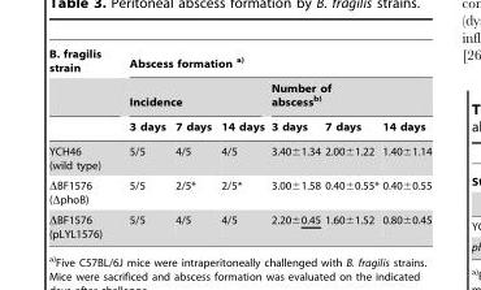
<table><thead><tr><td rowspan="3">B. fragilis strain</td><td colspan="6">Abscess formation a)</td></tr><tr><td colspan="3">Incidence</td><td colspan="3">Number of abscessb)</td></tr><tr><td>3 days</td><td>7 days</td><td>14 days</td><td>3 days</td><td>7 days</td><td>14 days</td></tr></thead><tbody><tr><td>YCH46 (wild type)</td><td>5/5</td><td>4/5</td><td>4/5</td><td>3.40±1.34</td><td>2.00±1.22</td><td>1.40±1.14</td></tr><tr><td>ΔBF1576 (ΔphoB)</td><td>5/5</td><td>2/5*</td><td>2/5*</td><td>3.00±1.58</td><td>0.40±0.55*</td><td>0.40±0.55</td></tr><tr><td>ΔBF1576 (pLYL1576)</td><td>5/5</td><td>4/5</td><td>4/5</td><td>2.20±0.45</td><td>1.60±1.52</td><td>0.80±0.45</td></tr></tbody></table>